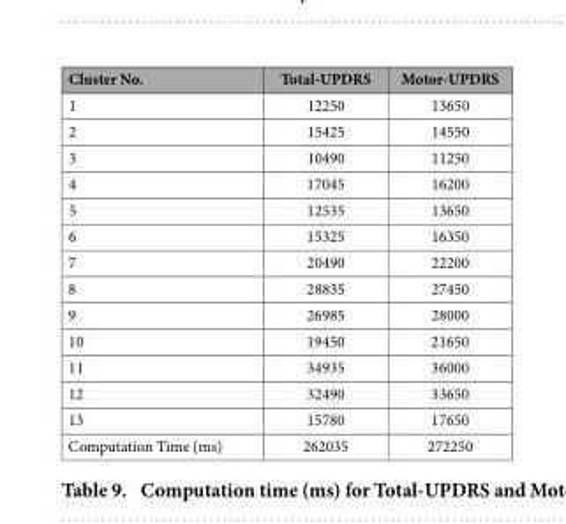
<table><thead><tr><td>Cluster No.</td><td>Total-UPDRS</td><td>Motor-UPDRS</td></tr></thead><tbody><tr><td>1</td><td>12250</td><td>13650</td></tr><tr><td>2</td><td>15425</td><td>14550</td></tr><tr><td>3</td><td>10490</td><td>11250</td></tr><tr><td>4</td><td>17045</td><td>16200</td></tr><tr><td>5</td><td>12535</td><td>13650</td></tr><tr><td>6</td><td>15325</td><td>16350</td></tr><tr><td>7</td><td>20490</td><td>22200</td></tr><tr><td>8</td><td>28835</td><td>27450</td></tr><tr><td>9</td><td>26985</td><td>28000</td></tr><tr><td>10</td><td>19450</td><td>21650</td></tr><tr><td>11</td><td>34935</td><td>36000</td></tr><tr><td>12</td><td>32490</td><td>33650</td></tr><tr><td>13</td><td>15780</td><td>17650</td></tr><tr><td>Computation Time (ms)</td><td>262035</td><td>272250</td></tr></tbody></table>